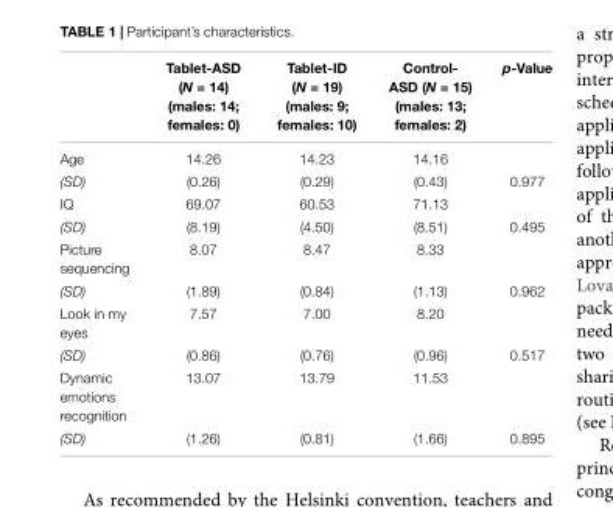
<table><thead><tr><td></td><td>Tablet-ASD (N = 14) (males: 14; females: 0)</td><td>Tablet-ID (N = 19) (males: 9; females: 10)</td><td>Control- ASD (N = 15) (males: 13; females: 2)</td><td>p-Value</td></tr></thead><tbody><tr><td>Age</td><td>14.26</td><td>14.23</td><td>14.16</td><td></td></tr><tr><td>(SD)</td><td>(0.26)</td><td>(0.29)</td><td>(0.43)</td><td>0.977</td></tr><tr><td>IQ</td><td>69.07</td><td>60.53</td><td>71.13</td><td></td></tr><tr><td>(SD)</td><td>(8.19)</td><td>(4.50)</td><td>(8.51)</td><td>0.495</td></tr><tr><td>Picture sequencing</td><td>8.07</td><td>8.47</td><td>8.33</td><td></td></tr><tr><td>(SD)</td><td>(1.89)</td><td>(0.84)</td><td>(1.13)</td><td>0.962</td></tr><tr><td>Look in my eyes</td><td>7.57</td><td>7.00</td><td>8.20</td><td></td></tr><tr><td>(SD)</td><td>(0.86)</td><td>(0.76)</td><td>(0.96)</td><td>0.517</td></tr><tr><td>Dynamic emotions recognition</td><td>13.07</td><td>13.79</td><td>11.53</td><td></td></tr><tr><td>(SD)</td><td>(1.26)</td><td>(0.81)</td><td>(1.66)</td><td>0.895</td></tr></tbody></table>